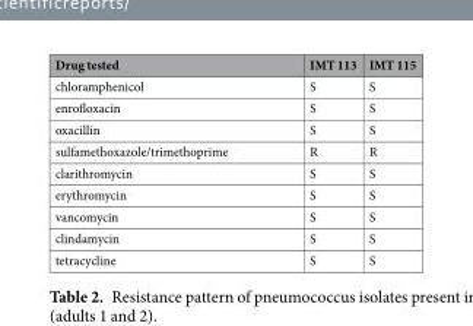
<table><thead><tr><td>Drug tested</td><td>IMT 113</td><td>IMT 115</td></tr></thead><tbody><tr><td>chloramphenicol</td><td>S</td><td>S</td></tr><tr><td>enrofloxacin</td><td>S</td><td>S</td></tr><tr><td>oxacillin</td><td>S</td><td>S</td></tr><tr><td>sulfamethoxazole/trimethoprime</td><td>R</td><td>R</td></tr><tr><td>clarithromycin</td><td>S</td><td>S</td></tr><tr><td>erythromycin</td><td>S</td><td>S</td></tr><tr><td>vancomycin</td><td>S</td><td>S</td></tr><tr><td>clindamycin</td><td>S</td><td>S</td></tr><tr><td>tetracycline</td><td>S</td><td>S</td></tr></tbody></table>